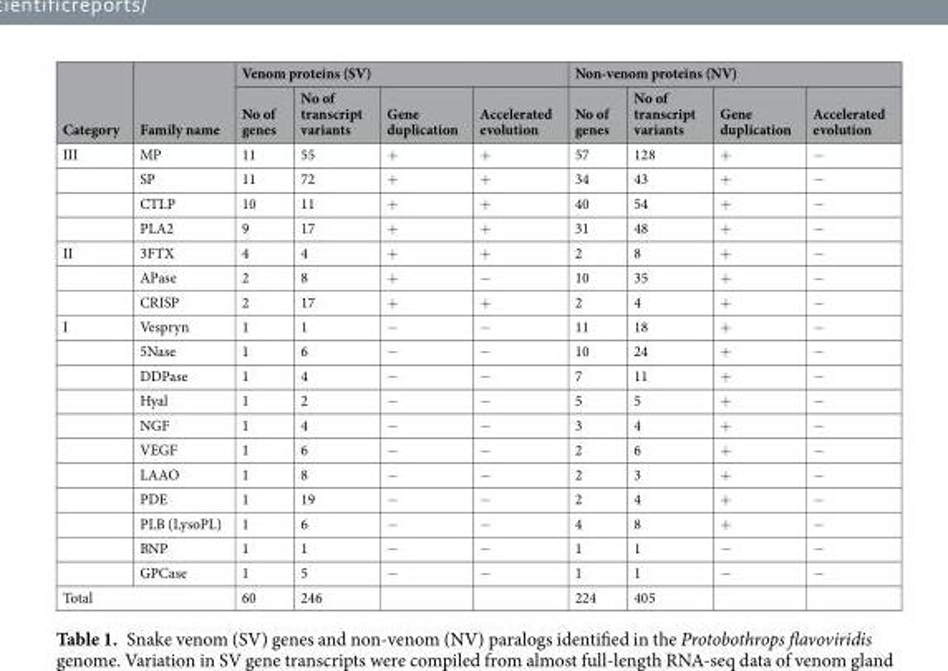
<table><thead><tr><td rowspan="2">Category</td><td rowspan="2">Family name</td><td colspan="4">Venom proteins (SV)</td><td colspan="4">Non-venom proteins (NV)</td></tr><tr><td>No of genes</td><td>No of transcript variants</td><td>Gene duplication</td><td>Accelerated evolution</td><td>No of genes</td><td>No of transcript variants</td><td>Gene duplication</td><td>Accelerated evolution</td></tr></thead><tbody><tr><td rowspan="4">III</td><td>MP</td><td>11</td><td>55</td><td>+</td><td>+</td><td>57</td><td>128</td><td>+</td><td>−</td></tr><tr><td>SP</td><td>11</td><td>72</td><td>+</td><td>+</td><td>34</td><td>43</td><td>+</td><td>−</td></tr><tr><td>CTLP</td><td>10</td><td>11</td><td>+</td><td>+</td><td>40</td><td>54</td><td>+</td><td>−</td></tr><tr><td>PLA2</td><td>9</td><td>17</td><td>+</td><td>+</td><td>31</td><td>48</td><td>+</td><td>−</td></tr><tr><td rowspan="3">II</td><td>3FTX</td><td>4</td><td>4</td><td>+</td><td>+</td><td>2</td><td>8</td><td>+</td><td>−</td></tr><tr><td>APase</td><td>2</td><td>8</td><td>+</td><td>−</td><td>10</td><td>35</td><td>+</td><td>−</td></tr><tr><td>CRISP</td><td>2</td><td>17</td><td>+</td><td>+</td><td>2</td><td>4</td><td>+</td><td>−</td></tr><tr><td rowspan="11">I</td><td>Vespryn</td><td>1</td><td>1</td><td>−</td><td>−</td><td>11</td><td>18</td><td>+</td><td>−</td></tr><tr><td>5Nase</td><td>1</td><td>6</td><td>−</td><td>−</td><td>10</td><td>24</td><td>+</td><td>−</td></tr><tr><td>DDPase</td><td>1</td><td>4</td><td>−</td><td>−</td><td>7</td><td>11</td><td>+</td><td>−</td></tr><tr><td>Hyal</td><td>1</td><td>2</td><td>−</td><td>−</td><td>5</td><td>5</td><td>+</td><td>−</td></tr><tr><td>NGF</td><td>1</td><td>4</td><td>−</td><td>−</td><td>3</td><td>4</td><td>+</td><td>−</td></tr><tr><td>VEGF</td><td>1</td><td>6</td><td>−</td><td>−</td><td>2</td><td>6</td><td>+</td><td>−</td></tr><tr><td>LAAO</td><td>1</td><td>8</td><td>−</td><td>−</td><td>2</td><td>3</td><td>+</td><td>−</td></tr><tr><td>PDE</td><td>1</td><td>19</td><td>−</td><td>−</td><td>2</td><td>4</td><td>+</td><td>−</td></tr><tr><td>PLB (LysoPL)</td><td>1</td><td>6</td><td>−</td><td>−</td><td>4</td><td>8</td><td>+</td><td>−</td></tr><tr><td>BNP</td><td>1</td><td>1</td><td>−</td><td>−</td><td>1</td><td>1</td><td>−</td><td>−</td></tr><tr><td>GPCase</td><td>1</td><td>5</td><td>−</td><td>−</td><td>1</td><td>1</td><td>−</td><td>−</td></tr><tr><td colspan="2">Total</td><td>60</td><td>246</td><td></td><td></td><td>224</td><td>405</td><td></td><td></td></tr></tbody></table>